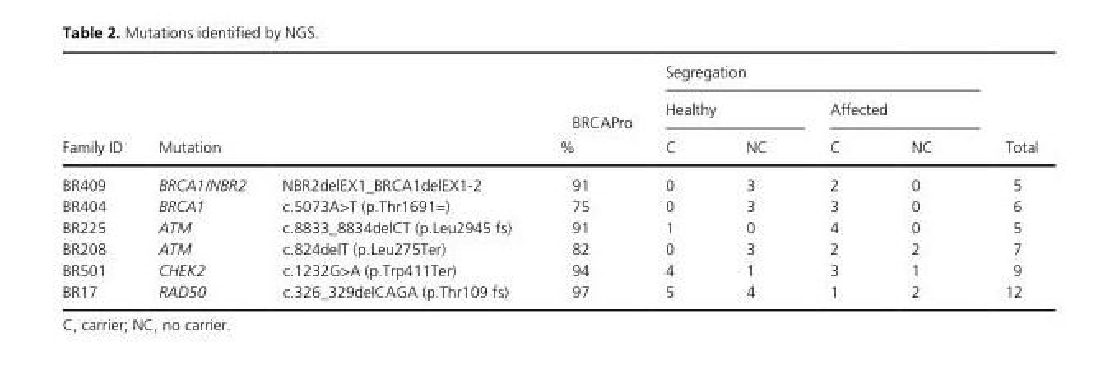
<table><thead><tr><td rowspan="4">Family ID BR409</td><td rowspan="3" colspan="2">Mutation</td><td rowspan="4">BRCAPro % 91</td><td colspan="4">Segregation</td><td rowspan="4">Total 5</td></tr><tr><td colspan="2">Healthy</td><td colspan="2">Affected</td></tr><tr><td rowspan="2">C 0</td><td rowspan="2">NC 3</td><td rowspan="2">C 2</td><td rowspan="2">NC 0</td></tr><tr><td>BRCA1/NBR2</td><td>NBR2delEX1_BRCA1delEX1- 2</td></tr></thead><tbody><tr><td>BR404</td><td>BRCA1</td><td>c.5073A&gt;T (p.Thr1691=)</td><td>75</td><td>0</td><td>3</td><td>3</td><td>0</td><td>6</td></tr><tr><td>BR225</td><td>ATM</td><td>c.8833_8834delCT (p.Leu2945 fs)</td><td>91</td><td>1</td><td>0</td><td>4</td><td>0</td><td>5</td></tr><tr><td>BR208</td><td>ATM</td><td>c.824delT (p.Leu275Ter)</td><td>82</td><td>0</td><td>3</td><td>2</td><td>2</td><td>7</td></tr><tr><td>BR501</td><td>CHEK2</td><td>c.1232G&gt;A (p.Trp411Ter)</td><td>94</td><td>4</td><td>1</td><td>3</td><td>1</td><td>9</td></tr><tr><td>BR17</td><td>RAD50</td><td>c.326_329delCAGA (p.Thr109 fs)</td><td>97</td><td>5</td><td>4</td><td>1</td><td>2</td><td>12</td></tr></tbody></table>